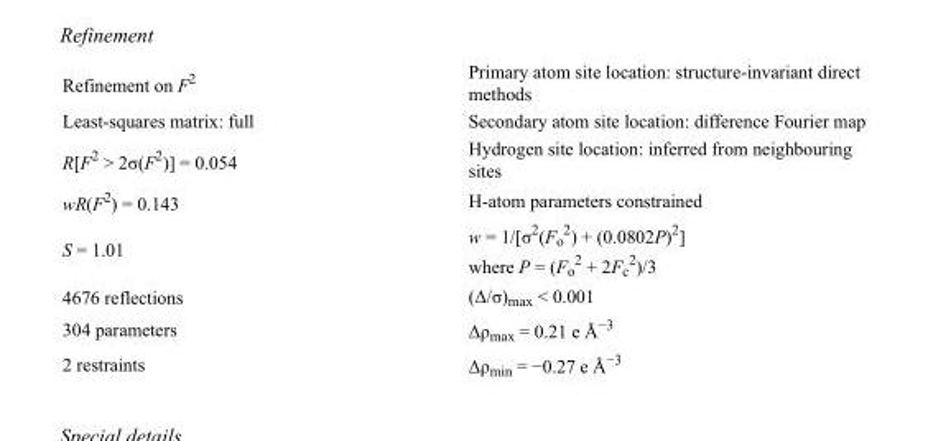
<table><tbody><tr><td>Refinement on F<sup>2</sup></td><td>Primary atom site location: structure-invariant direct methods</td></tr><tr><td>Least-squares matrix: full</td><td>Secondary atom site location: difference Fourier map</td></tr><tr><td>R[F<sup>2</sup> &gt; 2σ(F<sup>2</sup>)] = 0.054</td><td>Hydrogen site location: inferred from neighbouring sites</td></tr><tr><td>wR(F<sup>2</sup>) = 0.143</td><td>H-atom parameters constrained</td></tr><tr><td>S = 1.01</td><td>w = 1/[σ<sup>2</sup>(F<sub>o</sub> <sup>2</sup>) + (0.0802P)<sup>2</sup>] where P = (F<sub>o</sub> <sup>2</sup> + 2F<sub>c</sub> <sup>2</sup>)/3</td></tr><tr><td>4676 reflections</td><td>(Δ/σ)<sub>max</sub> &lt; 0.001</td></tr><tr><td>304 parameters</td><td>Δρ<sub>max</sub> = 0.21 e Å<sup>−3</sup></td></tr><tr><td>2 restraints</td><td>Δρ<sub>min</sub> = −0.27 e Å<sup>−3</sup></td></tr></tbody></table>